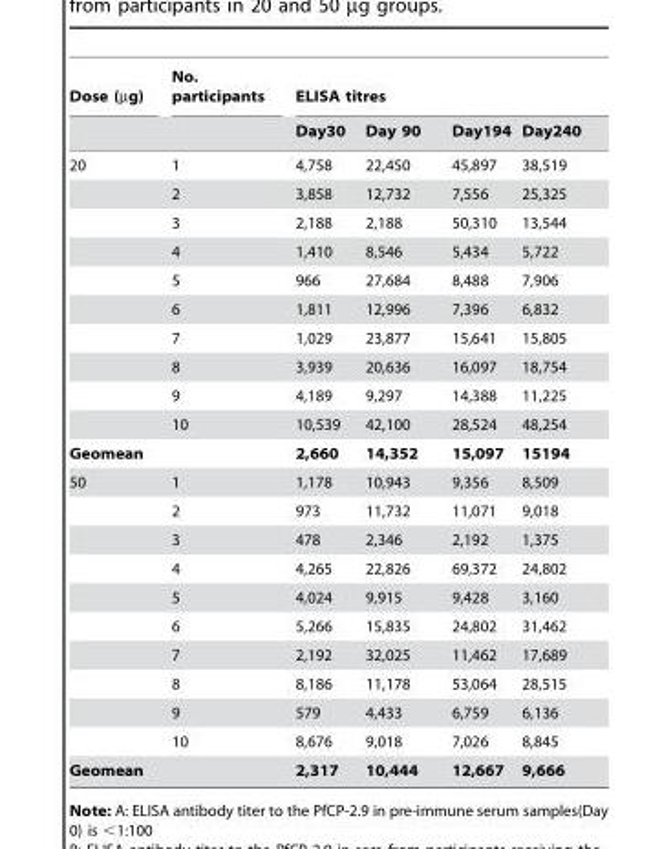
<table><thead><tr><td rowspan="2">Dose (µg)</td><td rowspan="2">No. participants</td><td colspan="4">ELISA titres</td></tr><tr><td>Day30</td><td>Day 90</td><td>Day194</td><td>Day240</td></tr></thead><tbody><tr><td rowspan="10">20</td><td>1</td><td>4,758</td><td>22,450</td><td>45,897</td><td>38,519</td></tr><tr><td>2</td><td>3,858</td><td>12,732</td><td>7,556</td><td>25,325</td></tr><tr><td>3</td><td>2,188</td><td>2,188</td><td>50,310</td><td>13,544</td></tr><tr><td>4</td><td>1,410</td><td>8,546</td><td>5,434</td><td>5,722</td></tr><tr><td>5</td><td>966</td><td>27,684</td><td>8,488</td><td>7,906</td></tr><tr><td>6</td><td>1,811</td><td>12,996</td><td>7,396</td><td>6,832</td></tr><tr><td>7</td><td>1,029</td><td>23,877</td><td>15,641</td><td>15,805</td></tr><tr><td>8</td><td>3,939</td><td>20,636</td><td>16,097</td><td>18,754</td></tr><tr><td>9</td><td>4,189</td><td>9,297</td><td>14,388</td><td>11,225</td></tr><tr><td>10</td><td>10,539</td><td>42,100</td><td>28,524</td><td>48,254</td></tr><tr><td>Geomean</td><td></td><td>2,660</td><td>14,352</td><td>15,097</td><td>15194</td></tr><tr><td rowspan="10">50</td><td>1</td><td>1,178</td><td>10,943</td><td>9,356</td><td>8,509</td></tr><tr><td>2</td><td>973</td><td>11,732</td><td>11,071</td><td>9,018</td></tr><tr><td>3</td><td>478</td><td>2,346</td><td>2,192</td><td>1,375</td></tr><tr><td>4</td><td>4,265</td><td>22,826</td><td>69,372</td><td>24,802</td></tr><tr><td>5</td><td>4,024</td><td>9,915</td><td>9,428</td><td>3,160</td></tr><tr><td>6</td><td>5,266</td><td>15,835</td><td>24,802</td><td>31,462</td></tr><tr><td>7</td><td>2,192</td><td>32,025</td><td>11,462</td><td>17,689</td></tr><tr><td>8</td><td>8,186</td><td>11,178</td><td>53,064</td><td>28,515</td></tr><tr><td>9</td><td>579</td><td>4,433</td><td>6,759</td><td>6,136</td></tr><tr><td>10</td><td>8,676</td><td>9,018</td><td>7,026</td><td>8,845</td></tr><tr><td>Geomean</td><td></td><td>2,317</td><td>10,444</td><td>12,667</td><td>9,666</td></tr></tbody></table>